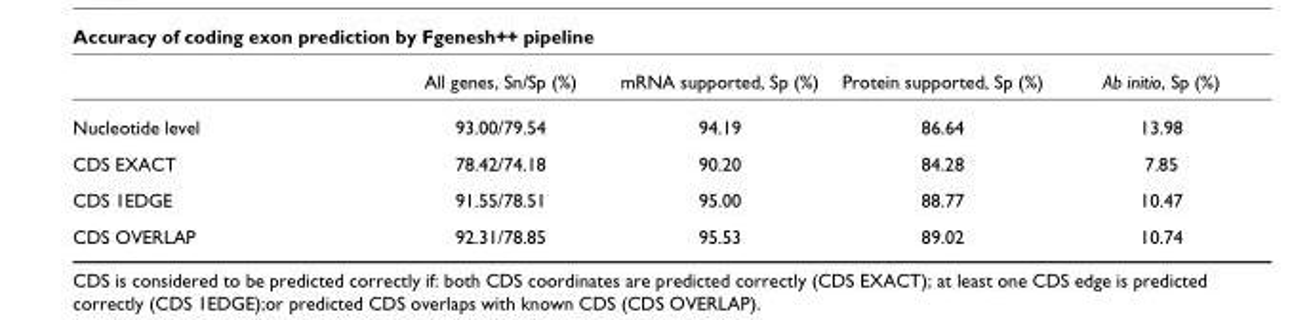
<table><thead><tr><td></td><td>All genes, Sn/Sp (%)</td><td>mRNA supported, Sp (%)</td><td>Protein supported, Sp (%)</td><td>Ab initio, Sp (%)</td></tr></thead><tbody><tr><td>Nucleotide level</td><td>93.00/79.54</td><td>94.19</td><td>86.64</td><td>13.98</td></tr><tr><td>CDS EXACT</td><td>78.42/74.18</td><td>90.20</td><td>84.28</td><td>7.85</td></tr><tr><td>CDS 1EDGE</td><td>91.55/78.51</td><td>95.00</td><td>88.77</td><td>10.47</td></tr><tr><td>CDS OVERLAP</td><td>92.31/78.85</td><td>95.53</td><td>89.02</td><td>10.74</td></tr></tbody></table>